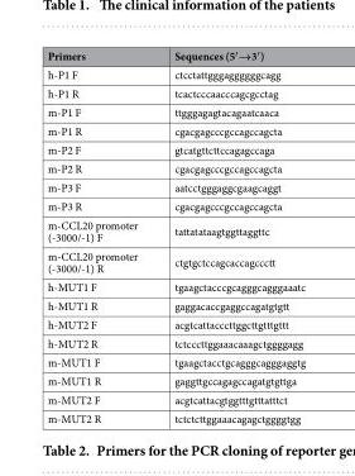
<table><thead><tr><td>Primers</td><td>Sequences (5′ →3′ )</td></tr></thead><tbody><tr><td>h-P1 F</td><td>ctcctattgggaggggggcagg</td></tr><tr><td>h-P1 R</td><td>tcactcccaacccagcgcctag</td></tr><tr><td>m-P1 F</td><td>ttgggagagtacagaatcaaca</td></tr><tr><td>m-P1 R</td><td>cgacgagcccgccagccagcta</td></tr><tr><td>m-P2 F</td><td>gtcatgttcttccagagccaga</td></tr><tr><td>m-P2 R</td><td>cgacgagcccgccagccagcta</td></tr><tr><td>m-P3 F</td><td>aatcctgggaggcgaagcaggt</td></tr><tr><td>m-P3 R</td><td>cgacgagcccgccagccagcta</td></tr><tr><td>m-CCL20 promoter (-3000/-1) F</td><td>tattatataagtggttaggttc</td></tr><tr><td>m-CCL20 promoter (-3000/-1) R</td><td>ctgtgctccagcaccagccctt</td></tr><tr><td>h-MUT1 F</td><td>tgaagctacccgcagggcagggaaatc</td></tr><tr><td>h-MUT1 R</td><td>gaggacaccgaggccagatgtgtt</td></tr><tr><td>h-MUT2 F</td><td>acgtcattacccttggcttgtttgttt</td></tr><tr><td>h-MUT2 R</td><td>tctcccttggaaacaaagctggggagg</td></tr><tr><td>m-MUT1 F</td><td>tgaagctacctgcagggcagggaggtg</td></tr><tr><td>m-MUT1 R</td><td>gaggttgccagagccagatgtgttga</td></tr><tr><td>m-MUT2 F</td><td>acgtcattacgtggtttgtttatttct</td></tr><tr><td>m-MUT2 R</td><td>tctctcttggaaacagagctggggtgg</td></tr></tbody></table>